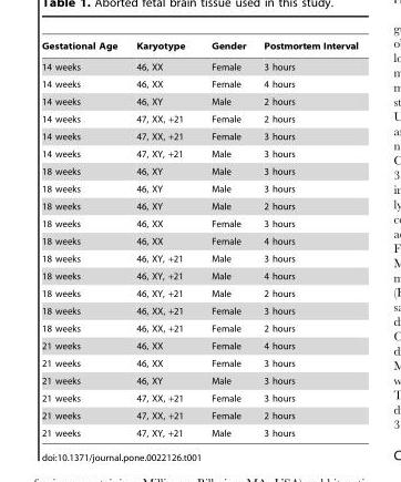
<table><thead><tr><td>Gestational Age</td><td>Karyotype</td><td>Gender</td><td>Postmortem Interval</td></tr></thead><tbody><tr><td>14 weeks</td><td>46, XX</td><td>Female</td><td>3 hours</td></tr><tr><td>14 weeks</td><td>46, XX</td><td>Female</td><td>4 hours</td></tr><tr><td>14 weeks</td><td>46, XY</td><td>Male</td><td>2 hours</td></tr><tr><td>14 weeks</td><td>47, XX, +21</td><td>Female</td><td>2 hours</td></tr><tr><td>14 weeks</td><td>47, XX, +21</td><td>Female</td><td>3 hours</td></tr><tr><td>14 weeks</td><td>47, XY, +21</td><td>Male</td><td>3 hours</td></tr><tr><td>18 weeks</td><td>46, XY</td><td>Male</td><td>3 hours</td></tr><tr><td>18 weeks</td><td>46, XY</td><td>Male</td><td>3 hours</td></tr><tr><td>18 weeks</td><td>46, XY</td><td>Male</td><td>2 hours</td></tr><tr><td>18 weeks</td><td>46, XX</td><td>Female</td><td>3 hours</td></tr><tr><td>18 weeks</td><td>46, XX</td><td>Female</td><td>4 hours</td></tr><tr><td>18 weeks</td><td>46, XY, +21</td><td>Male</td><td>3 hours</td></tr><tr><td>18 weeks</td><td>46, XY, +21</td><td>Male</td><td>4 hours</td></tr><tr><td>18 weeks</td><td>46, XY, +21</td><td>Male</td><td>2 hours</td></tr><tr><td>18 weeks</td><td>46, XX, +21</td><td>Female</td><td>3 hours</td></tr><tr><td>18 weeks</td><td>46, XX, +21</td><td>Female</td><td>2 hours</td></tr><tr><td>21 weeks</td><td>46, XX</td><td>Female</td><td>4 hours</td></tr><tr><td>21 weeks</td><td>46, XX</td><td>Female</td><td>3 hours</td></tr><tr><td>21 weeks</td><td>46, XY</td><td>Male</td><td>3 hours</td></tr><tr><td>21 weeks</td><td>47, XX, +21</td><td>Female</td><td>3 hours</td></tr><tr><td>21 weeks</td><td>47, XX, +21</td><td>Female</td><td>2 hours</td></tr><tr><td>21 weeks</td><td>47, XY, +21</td><td>Male</td><td>3 hours</td></tr></tbody></table>